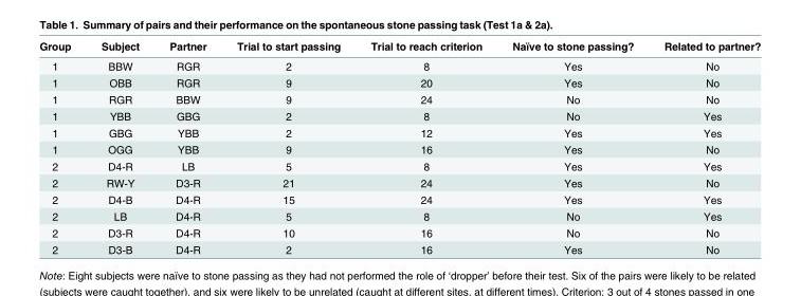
<table><thead><tr><td>Group</td><td>Subject</td><td>Partner</td><td>Trial to start passing</td><td>Trial to reach criterion</td><td>Naïve to stone passing?</td><td>Related to partner?</td></tr></thead><tbody><tr><td>1</td><td>BBW</td><td>RGR</td><td>2</td><td>8</td><td>Yes</td><td>No</td></tr><tr><td>1</td><td>OBB</td><td>RGR</td><td>9</td><td>20</td><td>Yes</td><td>No</td></tr><tr><td>1</td><td>RGR</td><td>BBW</td><td>9</td><td>24</td><td>No</td><td>No</td></tr><tr><td>1</td><td>YBB</td><td>GBG</td><td>2</td><td>8</td><td>No</td><td>Yes</td></tr><tr><td>1</td><td>GBG</td><td>YBB</td><td>2</td><td>12</td><td>Yes</td><td>Yes</td></tr><tr><td>1</td><td>OGG</td><td>YBB</td><td>9</td><td>16</td><td>Yes</td><td>No</td></tr><tr><td>2</td><td>D4-R</td><td>LB</td><td>5</td><td>8</td><td>Yes</td><td>Yes</td></tr><tr><td>2</td><td>RW-Y</td><td>D3-R</td><td>21</td><td>24</td><td>Yes</td><td>No</td></tr><tr><td>2</td><td>D4-B</td><td>D4-R</td><td>15</td><td>24</td><td>Yes</td><td>Yes</td></tr><tr><td>2</td><td>LB</td><td>D4-R</td><td>5</td><td>8</td><td>No</td><td>Yes</td></tr><tr><td>2</td><td>D3-R</td><td>D4-R</td><td>10</td><td>16</td><td>No</td><td>No</td></tr><tr><td>2</td><td>D3-B</td><td>D4-R</td><td>2</td><td>16</td><td>Yes</td><td>No</td></tr></tbody></table>